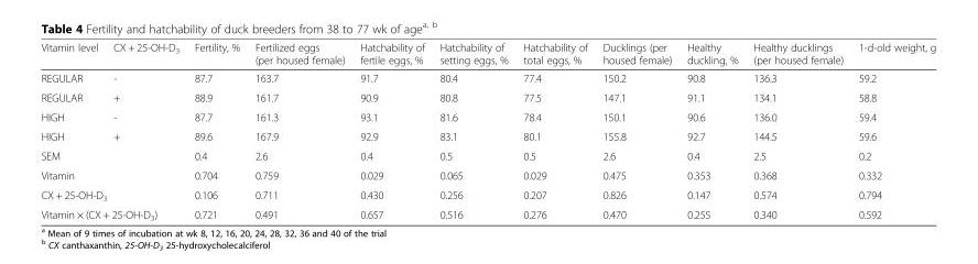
<table><thead><tr><td>Vitamin level</td><td>CX + 25-OH-D<sub>3</sub></td><td>Fertility, %</td><td>Fertilized eggs (per housed female)</td><td>Hatchability of fertile eggs, %</td><td>Hatchability of setting eggs, %</td><td>Hatchability of total eggs, %</td><td>Ducklings (per housed female)</td><td>Healthy duckling, %</td><td>Healthy ducklings (per housed female)</td><td>1-d-old weight, g</td></tr></thead><tbody><tr><td>REGULAR</td><td>-</td><td>87.7</td><td>163.7</td><td>91.7</td><td>80.4</td><td>77.4</td><td>150.2</td><td>90.8</td><td>136.3</td><td>59.2</td></tr><tr><td>REGULAR</td><td>+</td><td>88.9</td><td>161.7</td><td>90.9</td><td>80.8</td><td>77.5</td><td>147.1</td><td>91.1</td><td>134.1</td><td>58.8</td></tr><tr><td>HIGH</td><td>-</td><td>87.7</td><td>161.3</td><td>93.1</td><td>81.6</td><td>78.4</td><td>150.1</td><td>90.6</td><td>136.0</td><td>59.4</td></tr><tr><td>HIGH</td><td>+</td><td>89.6</td><td>167.9</td><td>92.9</td><td>83.1</td><td>80.1</td><td>155.8</td><td>92.7</td><td>144.5</td><td>59.6</td></tr><tr><td colspan="2">SEM</td><td>0.4</td><td>2.6</td><td>0.4</td><td>0.5</td><td>0.5</td><td>2.6</td><td>0.4</td><td>2.5</td><td>0.2</td></tr><tr><td colspan="2">Vitamin</td><td>0.704</td><td>0.759</td><td>0.029</td><td>0.065</td><td>0.029</td><td>0.475</td><td>0.353</td><td>0.368</td><td>0.332</td></tr><tr><td colspan="2">CX + 25-OH-D<sub>3</sub></td><td>0.106</td><td>0.711</td><td>0.430</td><td>0.256</td><td>0.207</td><td>0.826</td><td>0.147</td><td>0.574</td><td>0.794</td></tr><tr><td colspan="2">Vitamin × (CX + 25-OH-D<sub>3</sub>)</td><td>0.721</td><td>0.491</td><td>0.657</td><td>0.516</td><td>0.276</td><td>0.470</td><td>0.255</td><td>0.340</td><td>0.592</td></tr></tbody></table>